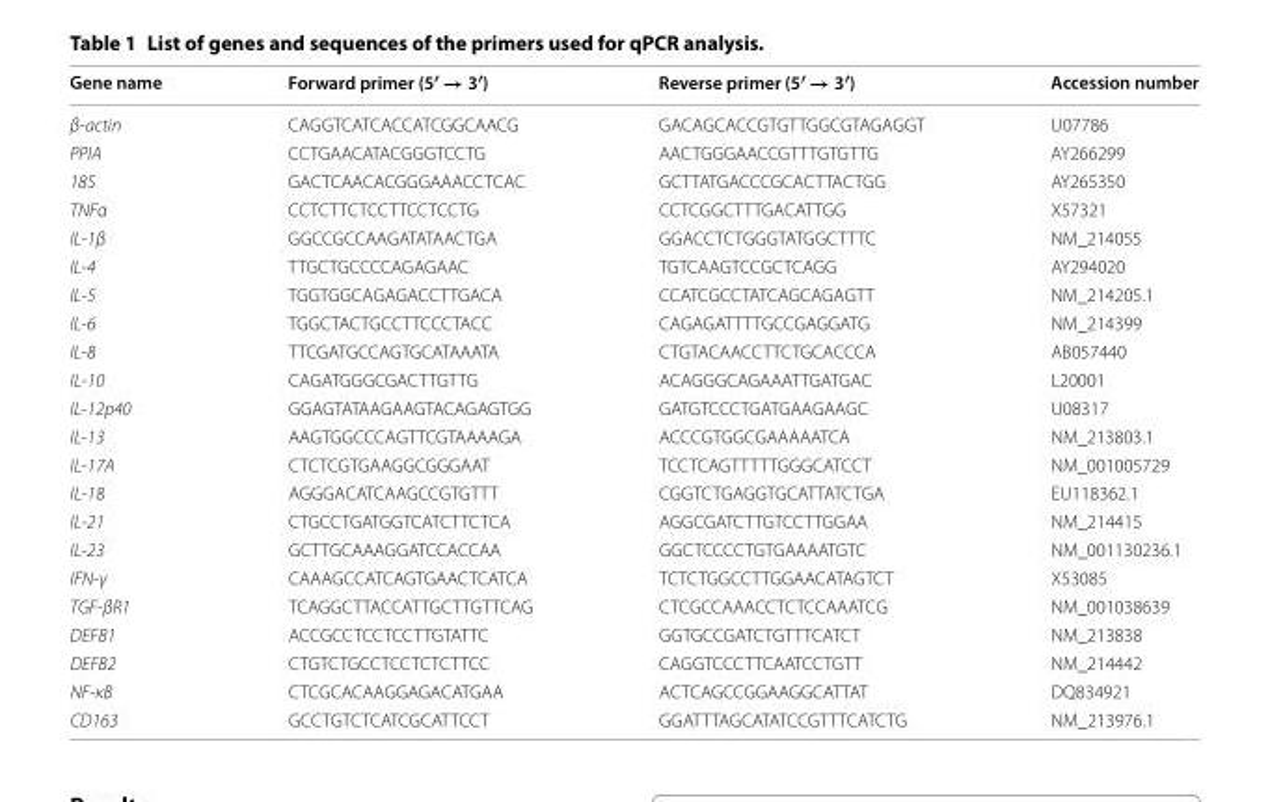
<table><thead><tr><td>Gene name</td><td>Forward primer (5′ → 3′)</td><td>Reverse primer (5′ → 3′)</td><td>Accession number</td></tr></thead><tbody><tr><td>β‑actin</td><td>CAGGTCATCACCATCGGCAACG</td><td>GACAGCACCGTGTTGGCGTAGAGGT</td><td>U07786</td></tr><tr><td>PPIA</td><td>CCTGAACATACGGGTCCTG</td><td>AACTGGGAACCGTTTGTGTTG</td><td>AY266299</td></tr><tr><td>18S</td><td>GACTCAACACGGGAAACCTCAC</td><td>GCTTATGACCCGCACTTACTGG</td><td>AY265350</td></tr><tr><td>TNFα</td><td>CCTCTTCTCCTTCCTCCTG</td><td>CCTCGGCTTTGACATTGG</td><td>X57321</td></tr><tr><td>IL‑1β</td><td>GGCCGCCAAGATATAACTGA</td><td>GGACCTCTGGGTATGGCTTTC</td><td>NM_214055</td></tr><tr><td>IL‑4</td><td>TTGCTGCCCCAGAGAAC</td><td>TGTCAAGTCCGCTCAGG</td><td>AY294020</td></tr><tr><td>IL‑5</td><td>TGGTGGCAGAGACCTTGACA</td><td>CCATCGCCTATCAGCAGAGTT</td><td>NM_214205.1</td></tr><tr><td>IL‑6</td><td>TGGCTACTGCCTTCCCTACC</td><td>CAGAGATTTTGCCGAGGATG</td><td>NM_214399</td></tr><tr><td>IL‑8</td><td>TTCGATGCCAGTGCATAAATA</td><td>CTGTACAACCTTCTGCACCCA</td><td>AB057440</td></tr><tr><td>IL‑10</td><td>CAGATGGGCGACTTGTTG</td><td>ACAGGGCAGAAATTGATGAC</td><td>L20001</td></tr><tr><td>IL‑12p40</td><td>GGAGTATAAGAAGTACAGAGTGG</td><td>GATGTCCCTGATGAAGAAGC</td><td>U08317</td></tr><tr><td>IL‑13</td><td>AAGTGGCCCAGTTCGTAAAAGA</td><td>ACCCGTGGCGAAAAATCA</td><td>NM_213803.1</td></tr><tr><td>IL‑17A</td><td>CTCTCGTGAAGGCGGGAAT</td><td>TCCTCAGTTTTTGGGCATCCT</td><td>NM_001005729</td></tr><tr><td>IL‑18</td><td>AGGGACATCAAGCCGTGTTT</td><td>CGGTCTGAGGTGCATTATCTGA</td><td>EU118362.1</td></tr><tr><td>IL‑21</td><td>CTGCCTGATGGTCATCTTCTCA</td><td>AGGCGATCTTGTCCTTGGAA</td><td>NM_214415</td></tr><tr><td>IL‑23</td><td>GCTTGCAAAGGATCCACCAA</td><td>GGCTCCCCTGTGAAAATGTC</td><td>NM_001130236.1</td></tr><tr><td>IFN‑γ</td><td>CAAAGCCATCAGTGAACTCATCA</td><td>TCTCTGGCCTTGGAACATAGTCT</td><td>X53085</td></tr><tr><td>TGF‑βR1</td><td>TCAGGCTTACCATTGCTTGTTCAG</td><td>CTCGCCAAACCTCTCCAAATCG</td><td>NM_001038639</td></tr><tr><td>DEFB1</td><td>ACCGCCTCCTCCTTGTATTC</td><td>GGTGCCGATCTGTTTCATCT</td><td>NM_213838</td></tr><tr><td>DEFB2</td><td>CTGTCTGCCTCCTCTCTTCC</td><td>CAGGTCCCTTCAATCCTGTT</td><td>NM_214442</td></tr><tr><td>NF‑κB</td><td>CTCGCACAAGGAGACATGAA</td><td>ACTCAGCCGGAAGGCATTAT</td><td>DQ834921</td></tr><tr><td>CD163</td><td>GCCTGTCTCATCGCATTCCT</td><td>GGATTTAGCATATCCGTTTCATCTG</td><td>NM_213976.1</td></tr></tbody></table>